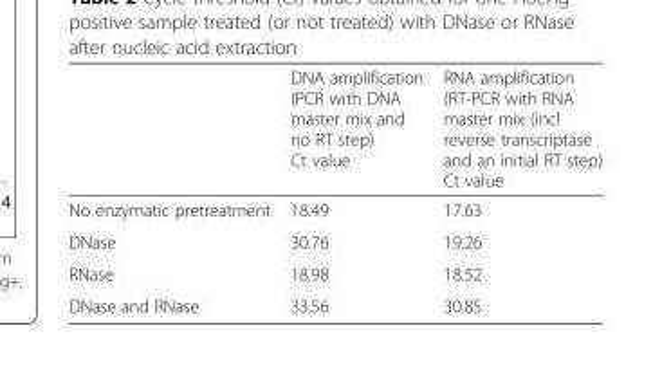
<table><thead><tr><td></td><td>DNA amplification (PCR with DNA master mix and no RT step) Ct value</td><td>RNA amplification (RT-PCR with RNA master mix (incl reverse transcriptase and an initial RT step) Ct value</td></tr></thead><tbody><tr><td>No enzymatic pretreatment</td><td>18.49</td><td>17.63</td></tr><tr><td>DNase</td><td>30.76</td><td>19.26</td></tr><tr><td>RNase</td><td>18.98</td><td>18.52</td></tr><tr><td>DNase and RNase</td><td>33.56</td><td>30.85</td></tr></tbody></table>